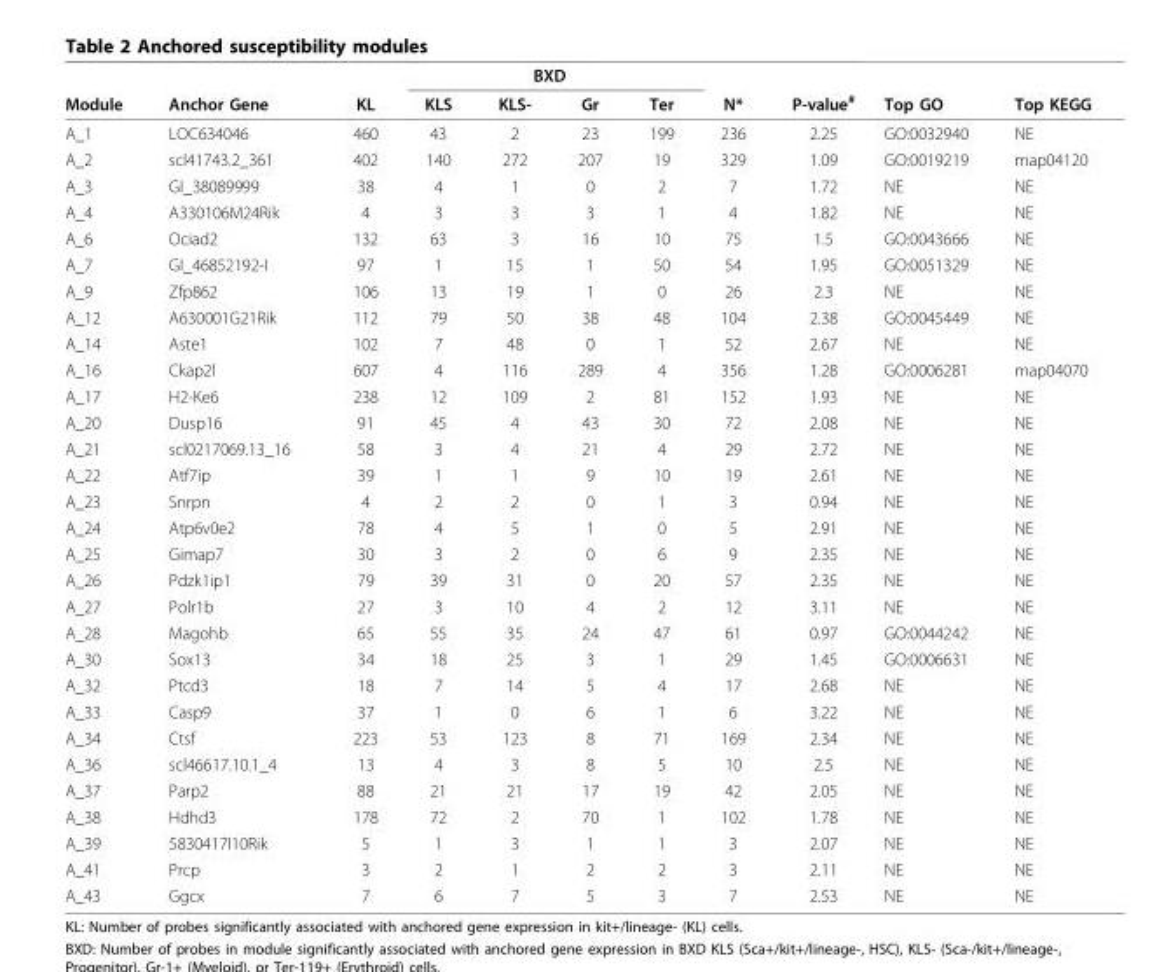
<table><thead><tr><td rowspan="2">Module</td><td rowspan="2">Anchor Gene</td><td rowspan="2">KL</td><td colspan="4">BXD</td><td rowspan="2">N*</td><td rowspan="2">P-value<sup>#</sup></td><td rowspan="2">Top GO</td><td rowspan="2">Top KEGG</td></tr><tr><td>KLS</td><td>KLS-</td><td>Gr</td><td>Ter</td></tr></thead><tbody><tr><td>A_1</td><td>LOC634046</td><td>460</td><td>43</td><td>2</td><td>23</td><td>199</td><td>236</td><td>2.25</td><td>GO:0032940</td><td>NE</td></tr><tr><td>A_2</td><td>scl41743.2_361</td><td>402</td><td>140</td><td>272</td><td>207</td><td>19</td><td>329</td><td>1.09</td><td>GO:0019219</td><td>map04120</td></tr><tr><td>A_3</td><td>GI_38089999</td><td>38</td><td>4</td><td>1</td><td>0</td><td>2</td><td>7</td><td>1.72</td><td>NE</td><td>NE</td></tr><tr><td>A_4</td><td>A330106M24Rik</td><td>4</td><td>3</td><td>3</td><td>3</td><td>1</td><td>4</td><td>1.82</td><td>NE</td><td>NE</td></tr><tr><td>A_6</td><td>Ociad2</td><td>132</td><td>63</td><td>3</td><td>16</td><td>10</td><td>75</td><td>1.5</td><td>GO:0043666</td><td>NE</td></tr><tr><td>A_7</td><td>GI_46852192-I</td><td>97</td><td>1</td><td>15</td><td>1</td><td>50</td><td>54</td><td>1.95</td><td>GO:0051329</td><td>NE</td></tr><tr><td>A_9</td><td>Zfp862</td><td>106</td><td>13</td><td>19</td><td>1</td><td>0</td><td>26</td><td>2.3</td><td>NE</td><td>NE</td></tr><tr><td>A_12</td><td>A630001G21Rik</td><td>112</td><td>79</td><td>50</td><td>38</td><td>48</td><td>104</td><td>2.38</td><td>GO:0045449</td><td>NE</td></tr><tr><td>A_14</td><td>Aste1</td><td>102</td><td>7</td><td>48</td><td>0</td><td>1</td><td>52</td><td>2.67</td><td>NE</td><td>NE</td></tr><tr><td>A_16</td><td>Ckap2l</td><td>607</td><td>4</td><td>116</td><td>289</td><td>4</td><td>356</td><td>1.28</td><td>GO:0006281</td><td>map04070</td></tr><tr><td>A_17</td><td>H2-Ke6</td><td>238</td><td>12</td><td>109</td><td>2</td><td>81</td><td>152</td><td>1.93</td><td>NE</td><td>NE</td></tr><tr><td>A_20</td><td>Dusp16</td><td>91</td><td>45</td><td>4</td><td>43</td><td>30</td><td>72</td><td>2.08</td><td>NE</td><td>NE</td></tr><tr><td>A_21</td><td>scl0217069.13_16</td><td>58</td><td>3</td><td>4</td><td>21</td><td>4</td><td>29</td><td>2.72</td><td>NE</td><td>NE</td></tr><tr><td>A_22</td><td>Atf7ip</td><td>39</td><td>1</td><td>1</td><td>9</td><td>10</td><td>19</td><td>2.61</td><td>NE</td><td>NE</td></tr><tr><td>A_23</td><td>Snrpn</td><td>4</td><td>2</td><td>2</td><td>0</td><td>1</td><td>3</td><td>0.94</td><td>NE</td><td>NE</td></tr><tr><td>A_24</td><td>Atp6v0e2</td><td>78</td><td>4</td><td>5</td><td>1</td><td>0</td><td>5</td><td>2.91</td><td>NE</td><td>NE</td></tr><tr><td>A_25</td><td>Gimap7</td><td>30</td><td>3</td><td>2</td><td>0</td><td>6</td><td>9</td><td>2.35</td><td>NE</td><td>NE</td></tr><tr><td>A_26</td><td>Pdzk1ip1</td><td>79</td><td>39</td><td>31</td><td>0</td><td>20</td><td>57</td><td>2.35</td><td>NE</td><td>NE</td></tr><tr><td>A_27</td><td>Polr1b</td><td>27</td><td>3</td><td>10</td><td>4</td><td>2</td><td>12</td><td>3.11</td><td>NE</td><td>NE</td></tr><tr><td>A_28</td><td>Magohb</td><td>65</td><td>55</td><td>35</td><td>24</td><td>47</td><td>61</td><td>0.97</td><td>GO:0044242</td><td>NE</td></tr><tr><td>A_30</td><td>Sox13</td><td>34</td><td>18</td><td>25</td><td>3</td><td>1</td><td>29</td><td>1.45</td><td>GO:0006631</td><td>NE</td></tr><tr><td>A_32</td><td>Ptcd3</td><td>18</td><td>7</td><td>14</td><td>5</td><td>4</td><td>17</td><td>2.68</td><td>NE</td><td>NE</td></tr><tr><td>A_33</td><td>Casp9</td><td>37</td><td>1</td><td>0</td><td>6</td><td>1</td><td>6</td><td>3.22</td><td>NE</td><td>NE</td></tr><tr><td>A_34</td><td>Ctsf</td><td>223</td><td>53</td><td>123</td><td>8</td><td>71</td><td>169</td><td>2.34</td><td>NE</td><td>NE</td></tr><tr><td>A_36</td><td>scl46617.10.1_4</td><td>13</td><td>4</td><td>3</td><td>8</td><td>5</td><td>10</td><td>2.5</td><td>NE</td><td>NE</td></tr><tr><td>A_37</td><td>Parp2</td><td>88</td><td>21</td><td>21</td><td>17</td><td>19</td><td>42</td><td>2.05</td><td>NE</td><td>NE</td></tr><tr><td>A_38</td><td>Hdhd3</td><td>178</td><td>72</td><td>2</td><td>70</td><td>1</td><td>102</td><td>1.78</td><td>NE</td><td>NE</td></tr><tr><td>A_39</td><td>5830417I10Rik</td><td>5</td><td>1</td><td>3</td><td>1</td><td>1</td><td>3</td><td>2.07</td><td>NE</td><td>NE</td></tr><tr><td>A_41</td><td>Prcp</td><td>3</td><td>2</td><td>1</td><td>2</td><td>2</td><td>3</td><td>2.11</td><td>NE</td><td>NE</td></tr><tr><td>A_43</td><td>Ggcx</td><td>7</td><td>6</td><td>7</td><td>5</td><td>3</td><td>7</td><td>2.53</td><td>NE</td><td>NE</td></tr></tbody></table>